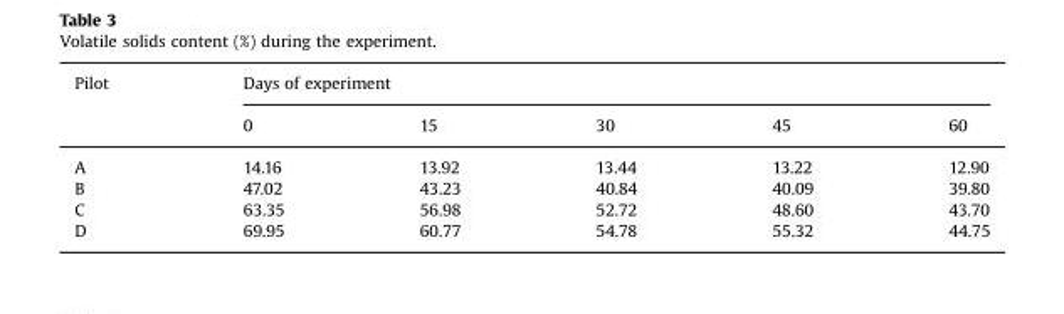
<table><thead><tr><td rowspan="2">Pilot</td><td colspan="5">Days of experiment</td></tr><tr><td>0</td><td>15</td><td>30</td><td>45</td><td>60</td></tr></thead><tbody><tr><td>A</td><td>14.16</td><td>13.92</td><td>13.44</td><td>13.22</td><td>12.90</td></tr><tr><td>B</td><td>47.02</td><td>43.23</td><td>40.84</td><td>40.09</td><td>39.80</td></tr><tr><td>C</td><td>63.35</td><td>56.98</td><td>52.72</td><td>48.60</td><td>43.70</td></tr><tr><td>D</td><td>69.95</td><td>60.77</td><td>54.78</td><td>55.32</td><td>44.75</td></tr></tbody></table>